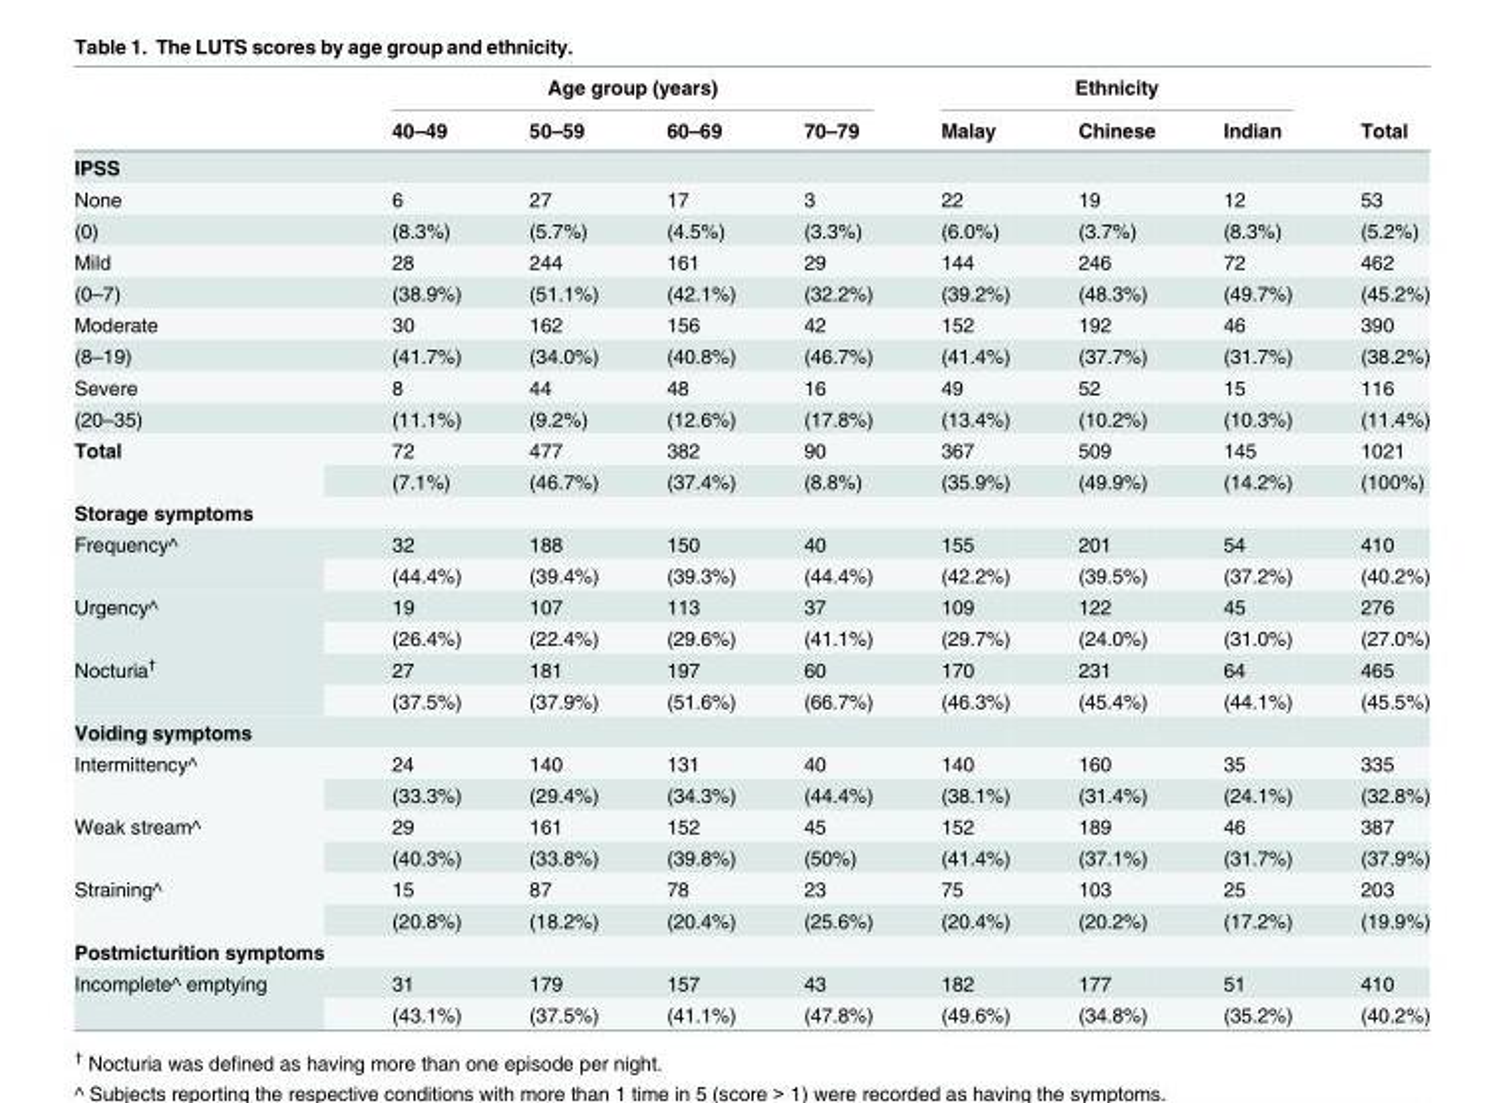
<table><thead><tr><td rowspan="2"></td><td colspan="4">Age group (years)</td><td colspan="3">Ethnicity</td><td rowspan="2">Total</td></tr><tr><td>40–49</td><td>50–59</td><td>60–69</td><td>70–79</td><td>Malay</td><td>Chinese</td><td>Indian</td></tr></thead><tbody><tr><td colspan="9">IPSS</td></tr><tr><td>None</td><td>6</td><td>27</td><td>17</td><td>3</td><td>22</td><td>19</td><td>12</td><td>53</td></tr><tr><td>(0)</td><td>(8.3%)</td><td>(5.7%)</td><td>(4.5%)</td><td>(3.3%)</td><td>(6.0%)</td><td>(3.7%)</td><td>(8.3%)</td><td>(5.2%)</td></tr><tr><td>Mild</td><td>28</td><td>244</td><td>161</td><td>29</td><td>144</td><td>246</td><td>72</td><td>462</td></tr><tr><td>(0–7)</td><td>(38.9%)</td><td>(51.1%)</td><td>(42.1%)</td><td>(32.2%)</td><td>(39.2%)</td><td>(48.3%)</td><td>(49.7%)</td><td>(45.2%)</td></tr><tr><td>Moderate</td><td>30</td><td>162</td><td>156</td><td>42</td><td>152</td><td>192</td><td>46</td><td>390</td></tr><tr><td>(8–19)</td><td>(41.7%)</td><td>(34.0%)</td><td>(40.8%)</td><td>(46.7%)</td><td>(41.4%)</td><td>(37.7%)</td><td>(31.7%)</td><td>(38.2%)</td></tr><tr><td>Severe</td><td>8</td><td>44</td><td>48</td><td>16</td><td>49</td><td>52</td><td>15</td><td>116</td></tr><tr><td>(20–35)</td><td>(11.1%)</td><td>(9.2%)</td><td>(12.6%)</td><td>(17.8%)</td><td>(13.4%)</td><td>(10.2%)</td><td>(10.3%)</td><td>(11.4%)</td></tr><tr><td rowspan="2">Total</td><td>72</td><td>477</td><td>382</td><td>90</td><td>367</td><td>509</td><td>145</td><td>1021</td></tr><tr><td>(7.1%)</td><td>(46.7%)</td><td>(37.4%)</td><td>(8.8%)</td><td>(35.9%)</td><td>(49.9%)</td><td>(14.2%)</td><td>(100%)</td></tr><tr><td colspan="9">Storage symptoms</td></tr><tr><td rowspan="2">Frequency^</td><td>32</td><td>188</td><td>150</td><td>40</td><td>155</td><td>201</td><td>54</td><td>410</td></tr><tr><td>(44.4%)</td><td>(39.4%)</td><td>(39.3%)</td><td>(44.4%)</td><td>(42.2%)</td><td>(39.5%)</td><td>(37.2%)</td><td>(40.2%)</td></tr><tr><td rowspan="2">Urgency^</td><td>19</td><td>107</td><td>113</td><td>37</td><td>109</td><td>122</td><td>45</td><td>276</td></tr><tr><td>(26.4%)</td><td>(22.4%)</td><td>(29.6%)</td><td>(41.1%)</td><td>(29.7%)</td><td>(24.0%)</td><td>(31.0%)</td><td>(27.0%)</td></tr><tr><td rowspan="2">Nocturia<sup>†</sup></td><td>27</td><td>181</td><td>197</td><td>60</td><td>170</td><td>231</td><td>64</td><td>465</td></tr><tr><td>(37.5%)</td><td>(37.9%)</td><td>(51.6%)</td><td>(66.7%)</td><td>(46.3%)</td><td>(45.4%)</td><td>(44.1%)</td><td>(45.5%)</td></tr><tr><td colspan="9">Voiding symptoms</td></tr><tr><td rowspan="2">Intermittency^</td><td>24</td><td>140</td><td>131</td><td>40</td><td>140</td><td>160</td><td>35</td><td>335</td></tr><tr><td>(33.3%)</td><td>(29.4%)</td><td>(34.3%)</td><td>(44.4%)</td><td>(38.1%)</td><td>(31.4%)</td><td>(24.1%)</td><td>(32.8%)</td></tr><tr><td rowspan="2">Weak stream^</td><td>29</td><td>161</td><td>152</td><td>45</td><td>152</td><td>189</td><td>46</td><td>387</td></tr><tr><td>(40.3%)</td><td>(33.8%)</td><td>(39.8%)</td><td>(50%)</td><td>(41.4%)</td><td>(37.1%)</td><td>(31.7%)</td><td>(37.9%)</td></tr><tr><td rowspan="2">Straining^</td><td>15</td><td>87</td><td>78</td><td>23</td><td>75</td><td>103</td><td>25</td><td>203</td></tr><tr><td>(20.8%)</td><td>(18.2%)</td><td>(20.4%)</td><td>(25.6%)</td><td>(20.4%)</td><td>(20.2%)</td><td>(17.2%)</td><td>(19.9%)</td></tr><tr><td colspan="9">Postmicturition symptoms</td></tr><tr><td rowspan="2">Incomplete^ emptying</td><td>31</td><td>179</td><td>157</td><td>43</td><td>182</td><td>177</td><td>51</td><td>410</td></tr><tr><td>(43.1%)</td><td>(37.5%)</td><td>(41.1%)</td><td>(47.8%)</td><td>(49.6%)</td><td>(34.8%)</td><td>(35.2%)</td><td>(40.2%)</td></tr></tbody></table>